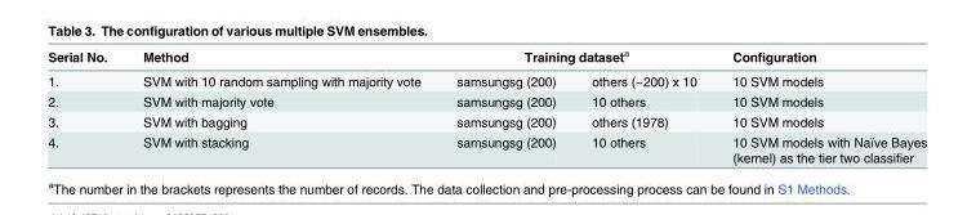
<table><thead><tr><td rowspan="2">Serial No. 1.</td><td rowspan="2">Method SVM with 10 random sampling with majority vote</td><td colspan="2">Training dataset<sup>a</sup></td><td rowspan="2">Configuration 10 SVM models</td></tr><tr><td>samsungsg (200)</td><td>others (~200) x 10</td></tr></thead><tbody><tr><td>2.</td><td>SVM with majority vote</td><td>samsungsg (200)</td><td>10 others</td><td>10 SVM models</td></tr><tr><td>3.</td><td>SVM with bagging</td><td>samsungsg (200)</td><td>others (1978)</td><td>10 SVM models</td></tr><tr><td>4.</td><td>SVM with stacking</td><td>samsungsg (200)</td><td>10 others</td><td>10 SVM models with Naïve Bayes (kernel) as the tier two classifier</td></tr></tbody></table>